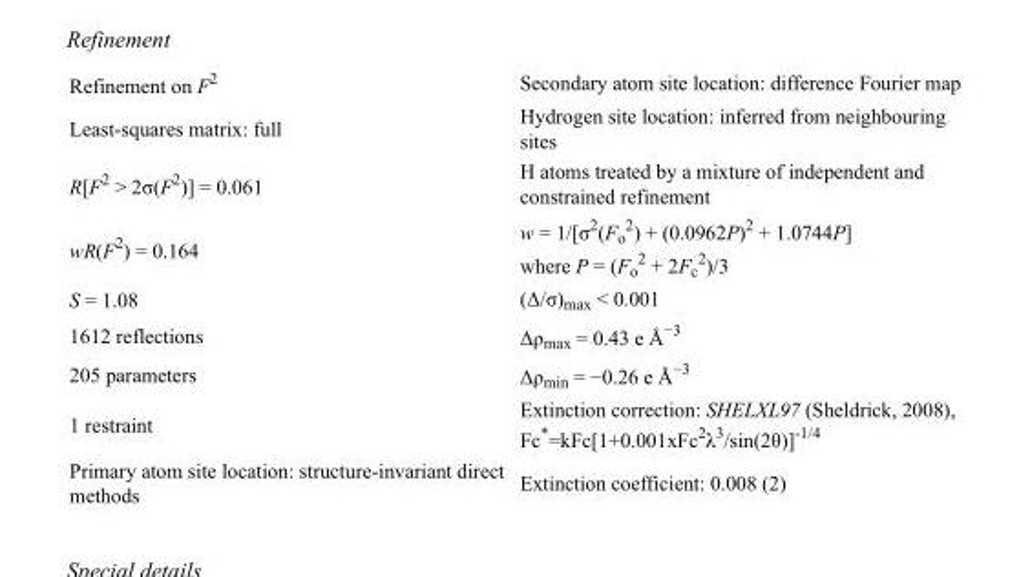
<table><tbody><tr><td>Refinement on F<sup>2</sup></td><td>Secondary atom site location: difference Fourier map</td></tr><tr><td>Least-squares matrix: full</td><td>Hydrogen site location: inferred from neighbouring sites</td></tr><tr><td>R[F<sup>2</sup> &gt; 2σ(F<sup>2</sup>)] = 0.061</td><td>H atoms treated by a mixture of independent and constrained refinement</td></tr><tr><td>wR(F<sup>2</sup>) = 0.164</td><td>w = 1/[σ<sup>2</sup>(F<sub>o</sub> <sup>2</sup>) + (0.0962P)<sup>2</sup> + 1.0744P] where P = (F<sub>o</sub> <sup>2</sup> + 2F<sub>c</sub> <sup>2</sup>)/3</td></tr><tr><td>S = 1.08</td><td>(Δ/σ)<sub>max</sub> &lt; 0.001</td></tr><tr><td>1612 reflections</td><td>Δρ<sub>max</sub> = 0.43 e Å<sup>−3</sup></td></tr><tr><td>205 parameters</td><td>Δρ<sub>min</sub> = −0.26 e Å<sup>−3</sup></td></tr><tr><td>1 restraint</td><td>Extinction correction: SHELXL97 (Sheldrick, 2008), Fc*=kFc[1+0.001xFc<sup>2</sup>λ<sup>3</sup>/sin(2θ)]<sup>-1/4</sup></td></tr><tr><td>Primary atom site location: structure-invariant direct methods</td><td>Extinction coefficient: 0.008 (2)</td></tr></tbody></table>